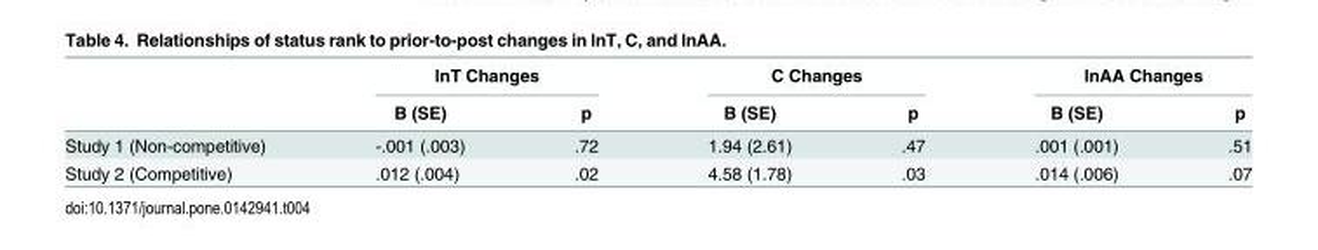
<table><thead><tr><td rowspan="2"></td><td colspan="2">lnT Changes</td><td colspan="2">C Changes</td><td colspan="2">lnAA Changes</td></tr><tr><td>B (SE)</td><td>p</td><td>B (SE)</td><td>p</td><td>B (SE)</td><td>p</td></tr></thead><tbody><tr><td>Study 1 (Non-competitive)</td><td>-.001 (.003)</td><td>.72</td><td>1.94 (2.61)</td><td>.47</td><td>.001 (.001)</td><td>.51</td></tr><tr><td>Study 2 (Competitive)</td><td>.012 (.004)</td><td>.02</td><td>4.58 (1.78)</td><td>.03</td><td>.014 (.006)</td><td>.07</td></tr></tbody></table>